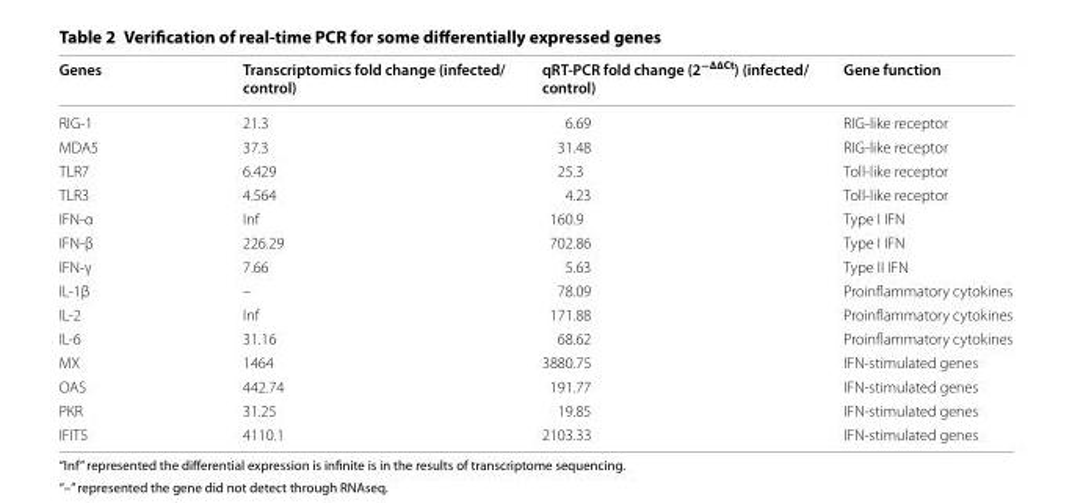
<table><thead><tr><td>Genes</td><td>Transcriptomics fold change (infected/ control)</td><td>qRT‑PCR fold change (2<sup>−∆∆Ct</sup>) (infected/ control)</td><td>Gene function</td></tr></thead><tbody><tr><td>RIG-1</td><td>21.3</td><td>6.69</td><td>RIG-like receptor</td></tr><tr><td>MDA5</td><td>37.3</td><td>31.48</td><td>RIG-like receptor</td></tr><tr><td>TLR7</td><td>6.429</td><td>25.3</td><td>Toll-like receptor</td></tr><tr><td>TLR3</td><td>4.564</td><td>4.23</td><td>Toll-like receptor</td></tr><tr><td>IFN-α</td><td>Inf</td><td>160.9</td><td>Type I IFN</td></tr><tr><td>IFN-β</td><td>226.29</td><td>702.86</td><td>Type I IFN</td></tr><tr><td>IFN-γ</td><td>7.66</td><td>5.63</td><td>Type II IFN</td></tr><tr><td>IL-1β</td><td>–</td><td>78.09</td><td>Proinflammatory cytokines</td></tr><tr><td>IL-2</td><td>Inf</td><td>171.88</td><td>Proinflammatory cytokines</td></tr><tr><td>IL-6</td><td>31.16</td><td>68.62</td><td>Proinflammatory cytokines</td></tr><tr><td>MX</td><td>1464</td><td>3880.75</td><td>IFN-stimulated genes</td></tr><tr><td>OAS</td><td>442.74</td><td>191.77</td><td>IFN-stimulated genes</td></tr><tr><td>PKR</td><td>31.25</td><td>19.85</td><td>IFN-stimulated genes</td></tr><tr><td>IFIT5</td><td>4110.1</td><td>2103.33</td><td>IFN-stimulated genes</td></tr></tbody></table>